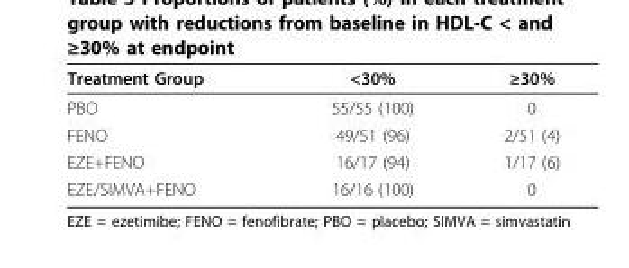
<table><thead><tr><td>Treatment Group</td><td>&lt;30%</td><td>≥30%</td></tr></thead><tbody><tr><td>PBO</td><td>55/55 (100)</td><td>0</td></tr><tr><td>FENO</td><td>49/51 (96)</td><td>2/51 (4)</td></tr><tr><td>EZE+FENO</td><td>16/17 (94)</td><td>1/17 (6)</td></tr><tr><td>EZE/SIMVA+FENO</td><td>16/16 (100)</td><td>0</td></tr></tbody></table>